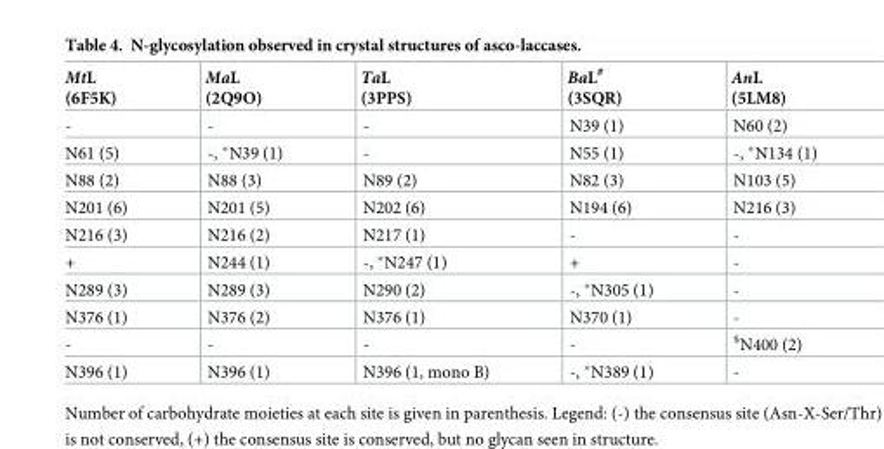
<table><thead><tr><td>MtL (6F5K)</td><td>MaL (2Q9O)</td><td>TaL (3PPS)</td><td>BaL<sup>#</sup> (3SQR)</td><td>AnL (5LM8)</td></tr></thead><tbody><tr><td>-</td><td>-</td><td>-</td><td>N39 (1)</td><td>N60 (2)</td></tr><tr><td>N61 (5)</td><td>-, *N39 (1)</td><td>-</td><td>N55 (1)</td><td>-, *N134 (1)</td></tr><tr><td>N88 (2)</td><td>N88 (3)</td><td>N89 (2)</td><td>N82 (3)</td><td>N103 (5)</td></tr><tr><td>N201 (6)</td><td>N201 (5)</td><td>N202 (6)</td><td>N194 (6)</td><td>N216 (3)</td></tr><tr><td>N216 (3)</td><td>N216 (2)</td><td>N217 (1)</td><td>-</td><td>-</td></tr><tr><td>+</td><td>N244 (1)</td><td>-, *N247 (1)</td><td>+</td><td>-</td></tr><tr><td>N289 (3)</td><td>N289 (3)</td><td>N290 (2)</td><td>-, *N305 (1)</td><td>-</td></tr><tr><td>N376 (1)</td><td>N376 (2)</td><td>N376 (1)</td><td>N370 (1)</td><td>-</td></tr><tr><td>-</td><td>-</td><td>-</td><td>-</td><td><sup>§</sup>N400 (2)</td></tr><tr><td>N396 (1)</td><td>N396 (1)</td><td>N396 (1, mono B)</td><td>-, *N389 (1)</td><td>-</td></tr></tbody></table>